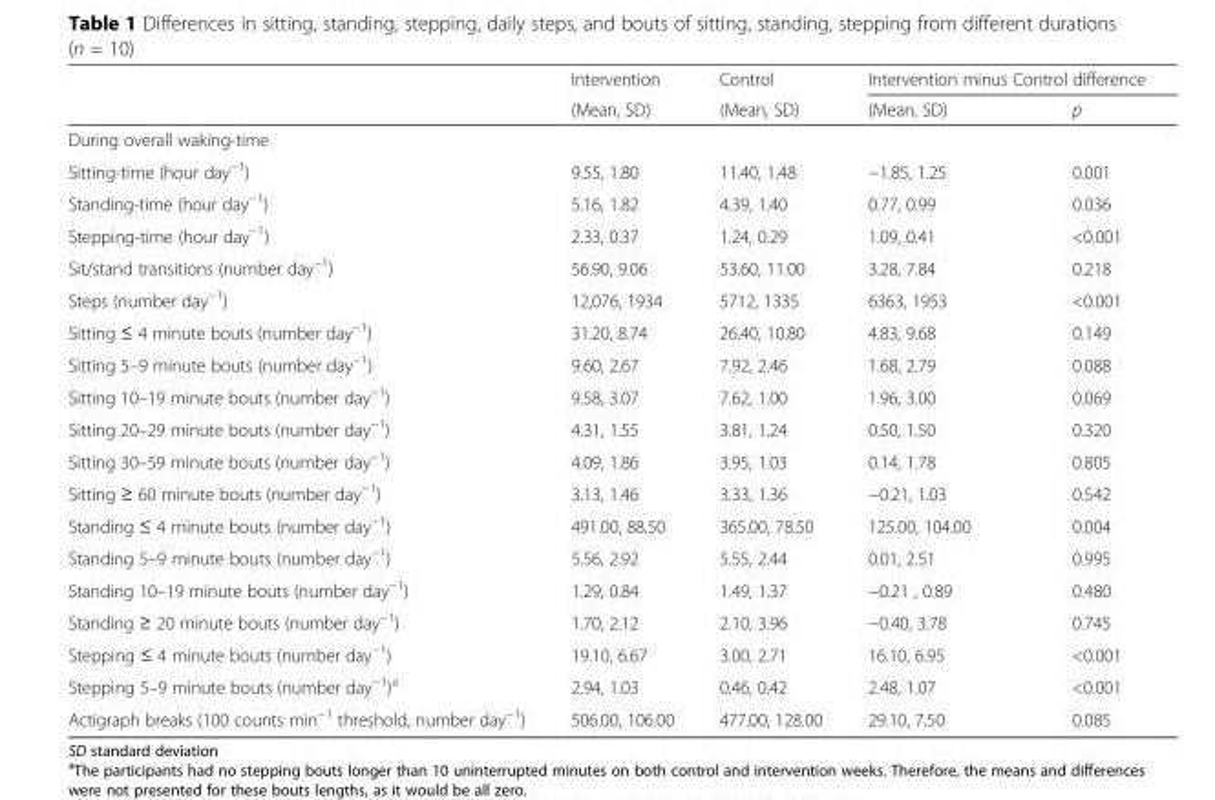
<table><thead><tr><td rowspan="2"></td><td rowspan="2">Intervention (Mean, SD)</td><td rowspan="2">Control (Mean, SD)</td><td colspan="2">Intervention minus Control difference</td></tr><tr><td>(Mean, SD)</td><td>p</td></tr></thead><tbody><tr><td colspan="5">During overall waking-time</td></tr><tr><td>Sitting-time (hour day<sup>−1</sup>)</td><td>9.55, 1.80</td><td>11.40, 1.48</td><td>−1.85, 1.25</td><td>0.001</td></tr><tr><td>Standing-time (hour day<sup>−1</sup>)</td><td>5.16, 1.82</td><td>4.39, 1.40</td><td>0.77, 0.99</td><td>0.036</td></tr><tr><td>Stepping-time (hour day<sup>−1</sup>)</td><td>2.33, 0.37</td><td>1.24, 0.29</td><td>1.09, 0.41</td><td>&lt;0.001</td></tr><tr><td>Sit/stand transitions (number day<sup>−1</sup>)</td><td>56.90, 9.06</td><td>53.60, 11.00</td><td>3.28, 7.84</td><td>0.218</td></tr><tr><td>Steps (number day<sup>−1</sup>)</td><td>12,076, 1934</td><td>5712, 1335</td><td>6363, 1953</td><td>&lt;0.001</td></tr><tr><td>Sitting ≤ 4 minute bouts (number day<sup>−1</sup>)</td><td>31.20, 8.74</td><td>26.40, 10.80</td><td>4.83, 9.68</td><td>0.149</td></tr><tr><td>Sitting 5–9 minute bouts (number day<sup>−1</sup>)</td><td>9.60, 2.67</td><td>7.92, 2.46</td><td>1.68, 2.79</td><td>0.088</td></tr><tr><td>Sitting 10–19 minute bouts (number day<sup>−1</sup>)</td><td>9.58, 3.07</td><td>7.62, 1.00</td><td>1.96, 3.00</td><td>0.069</td></tr><tr><td>Sitting 20–29 minute bouts (number day<sup>−1</sup>)</td><td>4.31, 1.55</td><td>3.81, 1.24</td><td>0.50, 1.50</td><td>0.320</td></tr><tr><td>Sitting 30–59 minute bouts (number day<sup>−1</sup>)</td><td>4.09, 1.86</td><td>3.95, 1.03</td><td>0.14, 1.78</td><td>0.805</td></tr><tr><td>Sitting ≥ 60 minute bouts (number day<sup>−1</sup>)</td><td>3.13, 1.46</td><td>3.33, 1.36</td><td>−0.21, 1.03</td><td>0.542</td></tr><tr><td>Standing ≤ 4 minute bouts (number day<sup>−1</sup>)</td><td>491.00, 88.50</td><td>365.00, 78.50</td><td>125.00, 104.00</td><td>0.004</td></tr><tr><td>Standing 5–9 minute bouts (number day<sup>−1</sup>)</td><td>5.56, 2.92</td><td>5.55, 2.44</td><td>0.01, 2.51</td><td>0.995</td></tr><tr><td>Standing 10–19 minute bouts (number day<sup>−1</sup>)</td><td>1.29, 0.84</td><td>1.49, 1.37</td><td>−0.21 , 0.89</td><td>0.480</td></tr><tr><td>Standing ≥ 20 minute bouts (number day<sup>−1</sup>)</td><td>1.70, 2.12</td><td>2.10, 3.96</td><td>−0.40, 3.78</td><td>0.745</td></tr><tr><td>Stepping ≤ 4 minute bouts (number day<sup>−1</sup>)</td><td>19.10, 6.67</td><td>3.00, 2.71</td><td>16.10, 6.95</td><td>&lt;0.001</td></tr><tr><td>Stepping 5–9 minute bouts (number day<sup>−1</sup>)<sup>a</sup></td><td>2.94, 1.03</td><td>0.46, 0.42</td><td>2.48, 1.07</td><td>&lt;0.001</td></tr><tr><td>Actigraph breaks (100 counts min<sup>−1</sup> threshold, number day<sup>−1</sup>)</td><td>506.00, 106.00</td><td>477.00, 128.00</td><td>29.10, 7.50</td><td>0.085</td></tr></tbody></table>